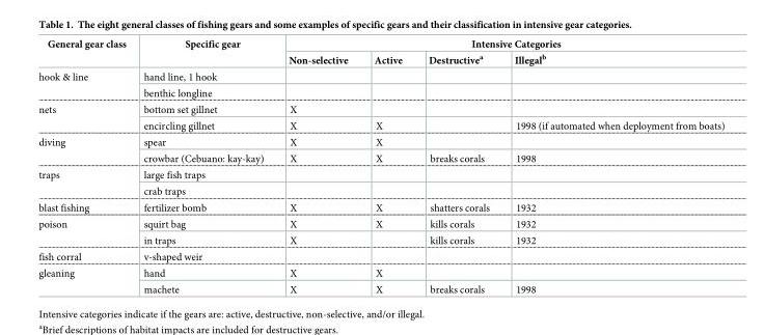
<table><thead><tr><td rowspan="2">General gear class</td><td rowspan="2">Specific gear</td><td colspan="4">Intensive Categories</td></tr><tr><td>Non-selective</td><td>Active</td><td>Destructive<sup>a</sup></td><td>Illegal<sup>b</sup></td></tr></thead><tbody><tr><td rowspan="2">hook &amp; line</td><td>hand line, 1 hook</td><td></td><td></td><td></td><td></td></tr><tr><td>benthic longline</td><td></td><td></td><td></td><td></td></tr><tr><td rowspan="2">nets</td><td>bottom set gillnet</td><td>X</td><td></td><td></td><td></td></tr><tr><td>encircling gillnet</td><td>X</td><td>X</td><td></td><td>1998 (if automated when deployment from boats)</td></tr><tr><td rowspan="2">diving</td><td>spear</td><td>X</td><td>X</td><td></td><td></td></tr><tr><td>crowbar (Cebuano: kay-kay)</td><td>X</td><td>X</td><td>breaks corals</td><td>1998</td></tr><tr><td rowspan="2">traps</td><td>large fish traps</td><td></td><td></td><td></td><td></td></tr><tr><td>crab traps</td><td></td><td></td><td></td><td></td></tr><tr><td>blast fishing</td><td>fertilizer bomb</td><td>X</td><td>X</td><td>shatters corals</td><td>1932</td></tr><tr><td rowspan="2">poison</td><td>squirt bag</td><td>X</td><td>X</td><td>kills corals</td><td>1932</td></tr><tr><td>in traps</td><td>X</td><td></td><td>kills corals</td><td>1932</td></tr><tr><td>fish corral</td><td>v-shaped weir</td><td></td><td></td><td></td><td></td></tr><tr><td rowspan="2">gleaning</td><td>hand</td><td>X</td><td>X</td><td></td><td></td></tr><tr><td>machete</td><td>X</td><td>X</td><td>breaks corals</td><td>1998</td></tr></tbody></table>